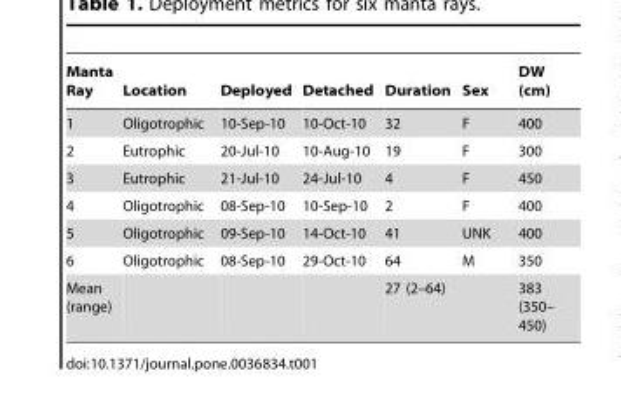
<table><thead><tr><td>Manta Ray</td><td>Location</td><td>Deployed</td><td>Detached</td><td>Duration</td><td>Sex</td><td>DW (cm)</td></tr></thead><tbody><tr><td>1</td><td>Oligotrophic</td><td>10-Sep-10</td><td>10-Oct-10</td><td>32</td><td>F</td><td>400</td></tr><tr><td>2</td><td>Eutrophic</td><td>20-Jul-10</td><td>10-Aug-10</td><td>19</td><td>F</td><td>300</td></tr><tr><td>3</td><td>Eutrophic</td><td>21-Jul-10</td><td>24-Jul-10</td><td>4</td><td>F</td><td>450</td></tr><tr><td>4</td><td>Oligotrophic</td><td>08-Sep-10</td><td>10-Sep-10</td><td>2</td><td>F</td><td>400</td></tr><tr><td>5</td><td>Oligotrophic</td><td>09-Sep-10</td><td>14-Oct-10</td><td>41</td><td>UNK</td><td>400</td></tr><tr><td>6</td><td>Oligotrophic</td><td>08-Sep-10</td><td>29-Oct-10</td><td>64</td><td>M</td><td>350</td></tr><tr><td>Mean (range)</td><td></td><td></td><td></td><td>27 (2–64)</td><td></td><td>383 (350– 450)</td></tr></tbody></table>